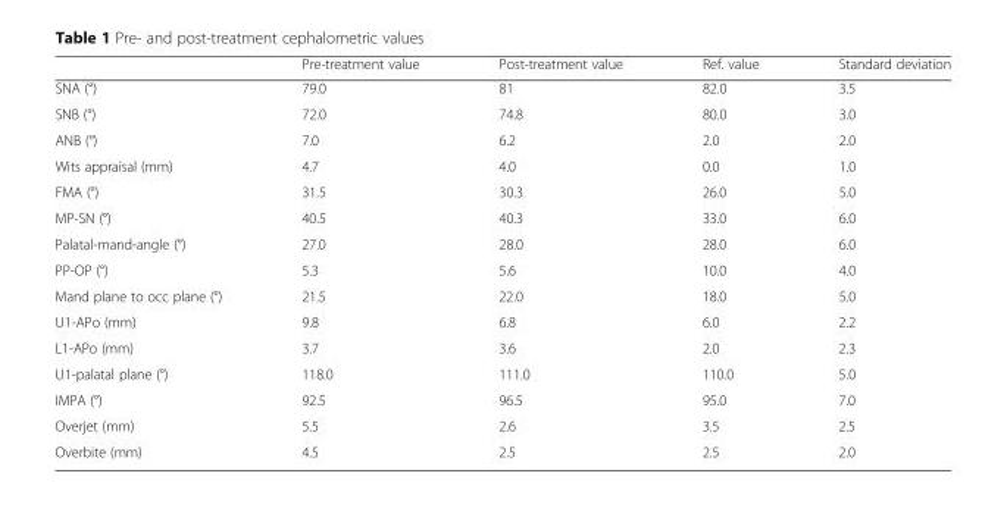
<table><thead><tr><td></td><td>Pre-treatment value</td><td>Post-treatment value</td><td>Ref. value</td><td>Standard deviation</td></tr></thead><tbody><tr><td>SNA (°)</td><td>79.0</td><td>81</td><td>82.0</td><td>3.5</td></tr><tr><td>SNB (°)</td><td>72.0</td><td>74.8</td><td>80.0</td><td>3.0</td></tr><tr><td>ANB (°)</td><td>7.0</td><td>6.2</td><td>2.0</td><td>2.0</td></tr><tr><td>Wits appraisal (mm)</td><td>4.7</td><td>4.0</td><td>0.0</td><td>1.0</td></tr><tr><td>FMA (°)</td><td>31.5</td><td>30.3</td><td>26.0</td><td>5.0</td></tr><tr><td>MP-SN (°)</td><td>40.5</td><td>40.3</td><td>33.0</td><td>6.0</td></tr><tr><td>Palatal-mand-angle (°)</td><td>27.0</td><td>28.0</td><td>28.0</td><td>6.0</td></tr><tr><td>PP-OP (°)</td><td>5.3</td><td>5.6</td><td>10.0</td><td>4.0</td></tr><tr><td>Mand plane to occ plane (°)</td><td>21.5</td><td>22.0</td><td>18.0</td><td>5.0</td></tr><tr><td>U1-APo (mm)</td><td>9.8</td><td>6.8</td><td>6.0</td><td>2.2</td></tr><tr><td>L1-APo (mm)</td><td>3.7</td><td>3.6</td><td>2.0</td><td>2.3</td></tr><tr><td>U1-palatal plane (°)</td><td>118.0</td><td>111.0</td><td>110.0</td><td>5.0</td></tr><tr><td>IMPA (°)</td><td>92.5</td><td>96.5</td><td>95.0</td><td>7.0</td></tr><tr><td>Overjet (mm)</td><td>5.5</td><td>2.6</td><td>3.5</td><td>2.5</td></tr><tr><td>Overbite (mm)</td><td>4.5</td><td>2.5</td><td>2.5</td><td>2.0</td></tr></tbody></table>